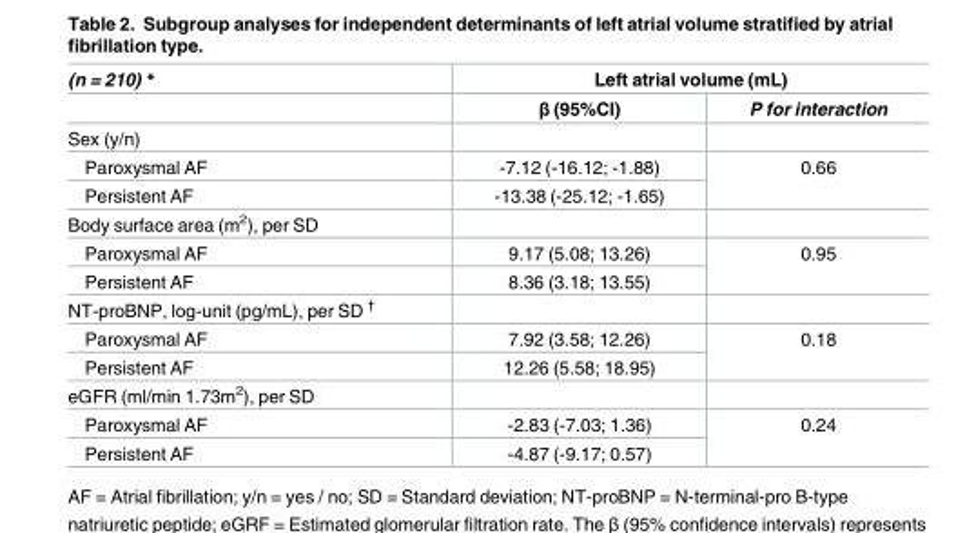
<table><thead><tr><td rowspan="2">(n = 210) *</td><td colspan="2">Left atrial volume (mL)</td></tr><tr><td>β (95%CI)</td><td>P for interaction</td></tr></thead><tbody><tr><td colspan="3">Sex (y/n)</td></tr><tr><td>Paroxysmal AF</td><td>-7.12 (-16.12; -1.88)</td><td rowspan="2">0.66</td></tr><tr><td>Persistent AF</td><td>-13.38 (-25.12; -1.65)</td></tr><tr><td colspan="3">Body surface area (m<sup>2</sup>), per SD</td></tr><tr><td>Paroxysmal AF</td><td>9.17 (5.08; 13.26)</td><td rowspan="2">0.95</td></tr><tr><td>Persistent AF</td><td>8.36 (3.18; 13.55)</td></tr><tr><td colspan="3">NT-proBNP, log-unit (pg/mL), per SD <sup>†</sup></td></tr><tr><td>Paroxysmal AF</td><td>7.92 (3.58; 12.26)</td><td rowspan="2">0.18</td></tr><tr><td>Persistent AF</td><td>12.26 (5.58; 18.95)</td></tr><tr><td colspan="3">eGFR (ml/min 1.73m<sup>2</sup>), per SD</td></tr><tr><td>Paroxysmal AF</td><td>-2.83 (-7.03; 1.36)</td><td rowspan="2">0.24</td></tr><tr><td>Persistent AF</td><td>-4.87 (-9.17; 0.57)</td></tr></tbody></table>